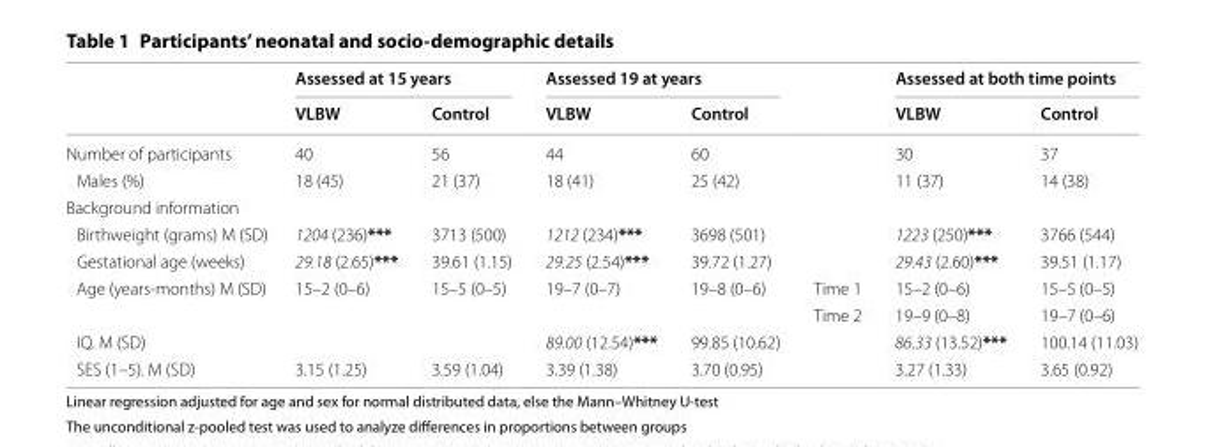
<table><thead><tr><td rowspan="2"></td><td colspan="2">Assessed at 15 years</td><td colspan="2">Assessed 19 at years</td><td rowspan="2"></td><td colspan="2">Assessed at both time points</td></tr><tr><td>VLBW</td><td>Control</td><td>VLBW</td><td>Control</td><td>VLBW</td><td>Control</td></tr></thead><tbody><tr><td>Number of participants</td><td>40</td><td>56</td><td>44</td><td>60</td><td></td><td>30</td><td>37</td></tr><tr><td>Males (%)</td><td>18 (45)</td><td>21 (37)</td><td>18 (41)</td><td>25 (42)</td><td></td><td>11 (37)</td><td>14 (38)</td></tr><tr><td colspan="8">Background information</td></tr><tr><td>Birthweight (grams) M (SD)</td><td>1204 (236)***</td><td>3713 (500)</td><td>1212 (234)***</td><td>3698 (501)</td><td></td><td>1223 (250)***</td><td>3766 (544)</td></tr><tr><td>Gestational age (weeks)</td><td>29.18 (2.65)***</td><td>39.61 (1.15)</td><td>29.25 (2.54)***</td><td>39.72 (1.27)</td><td></td><td>29.43 (2.60)***</td><td>39.51 (1.17)</td></tr><tr><td rowspan="2">Age (years‑months) M (SD)</td><td>15–2 (0–6)</td><td>15–5 (0–5)</td><td>19–7 (0–7)</td><td>19–8 (0–6)</td><td>Time 1</td><td>15–2 (0–6)</td><td>15–5 (0–5)</td></tr><tr><td></td><td></td><td></td><td></td><td>Time 2</td><td>19–9 (0–8)</td><td>19–7 (0–6)</td></tr><tr><td>IQ. M (SD)</td><td></td><td></td><td>89.00 (12.54)***</td><td>99.85 (10.62)</td><td></td><td>86.33 (13.52)***</td><td>100.14 (11.03)</td></tr><tr><td>SES (1–5). M (SD)</td><td>3.15 (1.25)</td><td>3.59 (1.04)</td><td>3.39 (1.38)</td><td>3.70 (0.95)</td><td></td><td>3.27 (1.33)</td><td>3.65 (0.92)</td></tr></tbody></table>